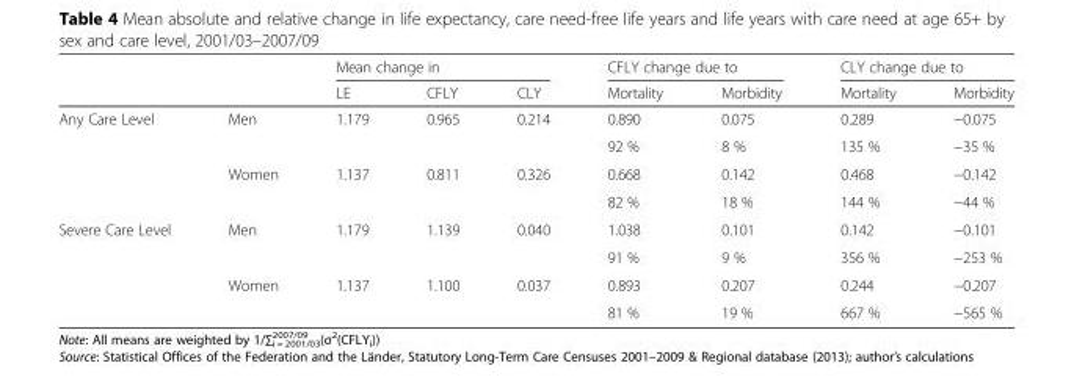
<table><thead><tr><td rowspan="2"></td><td rowspan="2"></td><td colspan="3">Mean change in</td><td colspan="2">CFLY change due to</td><td colspan="2">CLY change due to</td></tr><tr><td>LE</td><td>CFLY</td><td>CLY</td><td>Mortality</td><td>Morbidity</td><td>Mortality</td><td>Morbidity</td></tr></thead><tbody><tr><td rowspan="4">Any Care Level</td><td>Men</td><td>1.179</td><td>0.965</td><td>0.214</td><td>0.890</td><td>0.075</td><td>0.289</td><td>−0.075</td></tr><tr><td></td><td></td><td></td><td></td><td>92 %</td><td>8 %</td><td>135 %</td><td>−35 %</td></tr><tr><td>Women</td><td>1.137</td><td>0.811</td><td>0.326</td><td>0.668</td><td>0.142</td><td>0.468</td><td>−0.142</td></tr><tr><td></td><td></td><td></td><td></td><td>82 %</td><td>18 %</td><td>144 %</td><td>−44 %</td></tr><tr><td rowspan="4">Severe Care Level</td><td>Men</td><td>1.179</td><td>1.139</td><td>0.040</td><td>1.038</td><td>0.101</td><td>0.142</td><td>−0.101</td></tr><tr><td></td><td></td><td></td><td></td><td>91 %</td><td>9 %</td><td>356 %</td><td>−253 %</td></tr><tr><td>Women</td><td>1.137</td><td>1.100</td><td>0.037</td><td>0.893</td><td>0.207</td><td>0.244</td><td>−0.207</td></tr><tr><td></td><td></td><td></td><td></td><td>81 %</td><td>19 %</td><td>667 %</td><td>−565 %</td></tr></tbody></table>